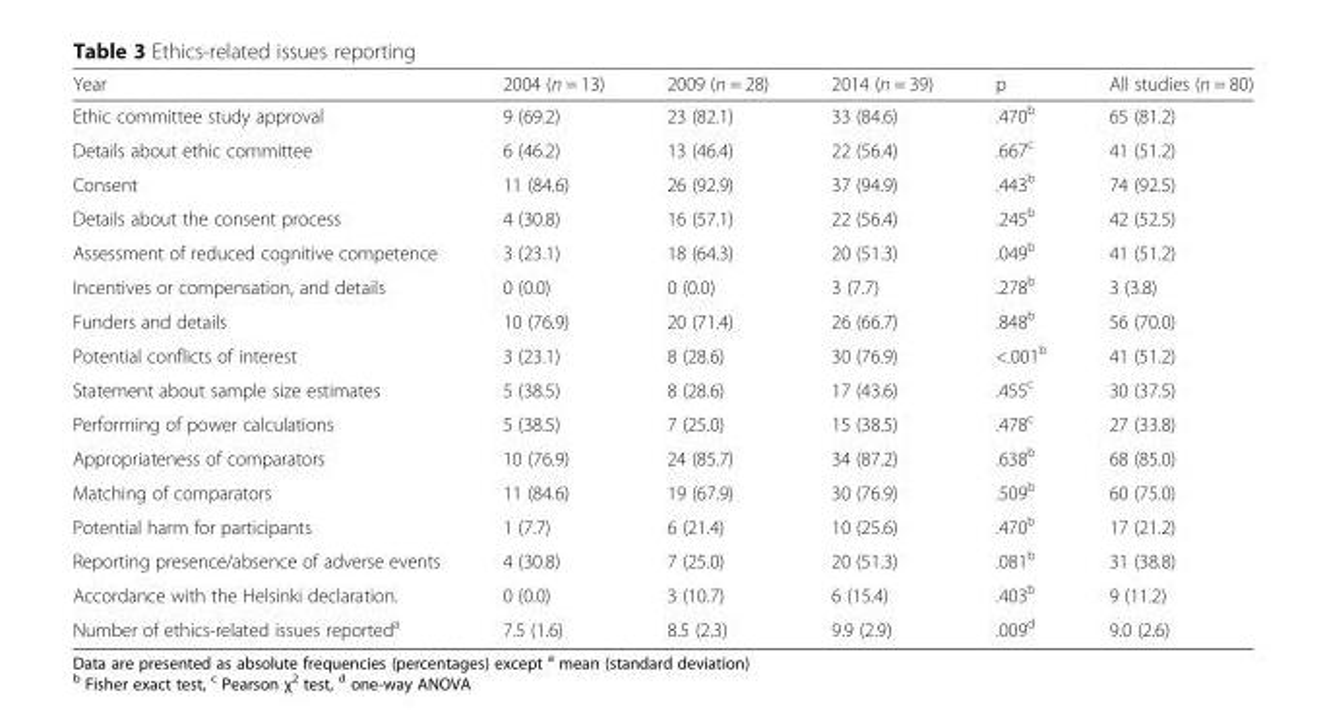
<table><thead><tr><td>Year</td><td>2004 (n = 13)</td><td>2009 (n = 28)</td><td>2014 (n = 39)</td><td>p</td><td>All studies (n = 80)</td></tr></thead><tbody><tr><td>Ethic committee study approval</td><td>9 (69.2)</td><td>23 (82.1)</td><td>33 (84.6)</td><td>.470<sup>b</sup></td><td>65 (81.2)</td></tr><tr><td>Details about ethic committee</td><td>6 (46.2)</td><td>13 (46.4)</td><td>22 (56.4)</td><td>.667<sup>c</sup></td><td>41 (51.2)</td></tr><tr><td>Consent</td><td>11 (84.6)</td><td>26 (92.9)</td><td>37 (94.9)</td><td>.443<sup>b</sup></td><td>74 (92.5)</td></tr><tr><td>Details about the consent process</td><td>4 (30.8)</td><td>16 (57.1)</td><td>22 (56.4)</td><td>.245<sup>b</sup></td><td>42 (52.5)</td></tr><tr><td>Assessment of reduced cognitive competence</td><td>3 (23.1)</td><td>18 (64.3)</td><td>20 (51.3)</td><td>.049<sup>b</sup></td><td>41 (51.2)</td></tr><tr><td>Incentives or compensation, and details</td><td>0 (0.0)</td><td>0 (0.0)</td><td>3 (7.7)</td><td>.278<sup>b</sup></td><td>3 (3.8)</td></tr><tr><td>Funders and details</td><td>10 (76.9)</td><td>20 (71.4)</td><td>26 (66.7)</td><td>.848<sup>b</sup></td><td>56 (70.0)</td></tr><tr><td>Potential conflicts of interest</td><td>3 (23.1)</td><td>8 (28.6)</td><td>30 (76.9)</td><td>&lt;.001<sup>b</sup></td><td>41 (51.2)</td></tr><tr><td>Statement about sample size estimates</td><td>5 (38.5)</td><td>8 (28.6)</td><td>17 (43.6)</td><td>.455<sup>c</sup></td><td>30 (37.5)</td></tr><tr><td>Performing of power calculations</td><td>5 (38.5)</td><td>7 (25.0)</td><td>15 (38.5)</td><td>.478<sup>c</sup></td><td>27 (33.8)</td></tr><tr><td>Appropriateness of comparators</td><td>10 (76.9)</td><td>24 (85.7)</td><td>34 (87.2)</td><td>.638<sup>b</sup></td><td>68 (85.0)</td></tr><tr><td>Matching of comparators</td><td>11 (84.6)</td><td>19 (67.9)</td><td>30 (76.9)</td><td>.509<sup>b</sup></td><td>60 (75.0)</td></tr><tr><td>Potential harm for participants</td><td>1 (7.7)</td><td>6 (21.4)</td><td>10 (25.6)</td><td>.470<sup>b</sup></td><td>17 (21.2)</td></tr><tr><td>Reporting presence/absence of adverse events</td><td>4 (30.8)</td><td>7 (25.0)</td><td>20 (51.3)</td><td>.081<sup>b</sup></td><td>31 (38.8)</td></tr><tr><td>Accordance with the Helsinki declaration.</td><td>0 (0.0)</td><td>3 (10.7)</td><td>6 (15.4)</td><td>.403<sup>b</sup></td><td>9 (11.2)</td></tr><tr><td>Number of ethics-related issues reported<sup>a</sup></td><td>7.5 (1.6)</td><td>8.5 (2.3)</td><td>9.9 (2.9)</td><td>.009<sup>d</sup></td><td>9.0 (2.6)</td></tr></tbody></table>